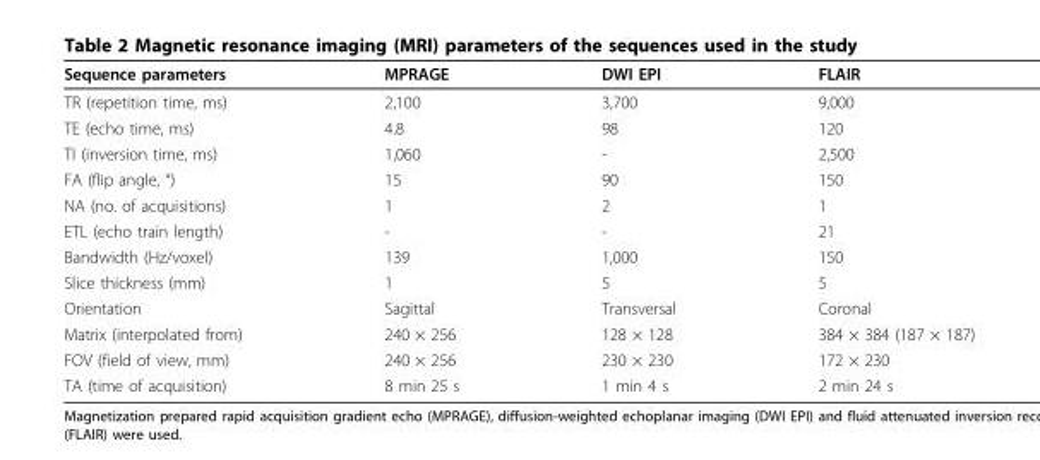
<table><thead><tr><td>Sequence parameters</td><td>MPRAGE</td><td>DWI EPI</td><td>FLAIR</td></tr></thead><tbody><tr><td>TR (repetition time, ms)</td><td>2,100</td><td>3,700</td><td>9,000</td></tr><tr><td>TE (echo time, ms)</td><td>4.8</td><td>98</td><td>120</td></tr><tr><td>TI (inversion time, ms)</td><td>1,060</td><td>-</td><td>2,500</td></tr><tr><td>FA (flip angle, °)</td><td>15</td><td>90</td><td>150</td></tr><tr><td>NA (no. of acquisitions)</td><td>1</td><td>2</td><td>1</td></tr><tr><td>ETL (echo train length)</td><td>-</td><td>-</td><td>21</td></tr><tr><td>Bandwidth (Hz/voxel)</td><td>139</td><td>1,000</td><td>150</td></tr><tr><td>Slice thickness (mm)</td><td>1</td><td>5</td><td>5</td></tr><tr><td>Orientation</td><td>Sagittal</td><td>Transversal</td><td>Coronal</td></tr><tr><td>Matrix (interpolated from)</td><td>240 × 256</td><td>128 × 128</td><td>384 × 384 (187 × 187)</td></tr><tr><td>FOV (field of view, mm)</td><td>240 × 256</td><td>230 × 230</td><td>172 × 230</td></tr><tr><td>TA (time of acquisition)</td><td>8 min 25 s</td><td>1 min 4 s</td><td>2 min 24 s</td></tr></tbody></table>